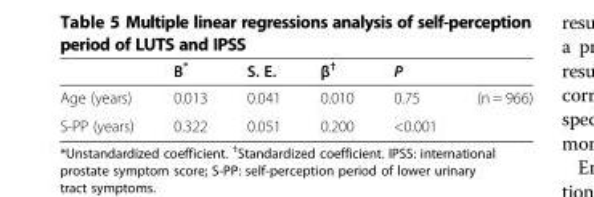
<table><thead><tr><td></td><td>B*</td><td>S. E.</td><td>β<sup>†</sup></td><td>P</td><td></td></tr></thead><tbody><tr><td>Age (years)</td><td>0.013</td><td>0.041</td><td>0.010</td><td>0.75</td><td>(n = 966)</td></tr><tr><td>S-PP (years)</td><td>0.322</td><td>0.051</td><td>0.200</td><td>&lt;0.001</td><td></td></tr></tbody></table>